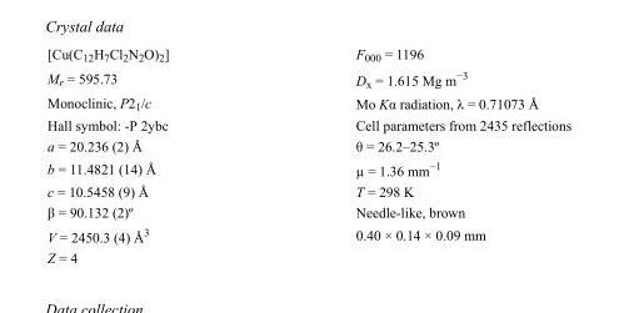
<table><tbody><tr><td>[Cu(C<sub>12</sub>H<sub>7</sub>Cl<sub>2</sub>N<sub>2</sub>O)<sub>2</sub>]</td><td>F000 = 1196</td></tr><tr><td>M<sub>r</sub> = 595.73</td><td>D<sub>x</sub> = 1.615 Mg m<sup>−3</sup></td></tr><tr><td>Monoclinic, P2<sub>1</sub>/c</td><td>Mo Kα radiation, λ = 0.71073 Å</td></tr><tr><td>Hall symbol: -P 2ybc</td><td>Cell parameters from 2435 reflections</td></tr><tr><td>a = 20.236 (2) Å</td><td>θ = 26.2–25.3º</td></tr><tr><td>b = 11.4821 (14) Å</td><td>µ = 1.36 mm<sup>−1</sup></td></tr><tr><td>c = 10.5458 (9) Å</td><td>T = 298 K</td></tr><tr><td>β = 90.132 (2)º</td><td>Needle-like, brown</td></tr><tr><td>V = 2450.3 (4) Å<sup>3</sup></td><td>0.40 × 0.14 × 0.09 mm</td></tr><tr><td>Z = 4</td><td></td></tr></tbody></table>